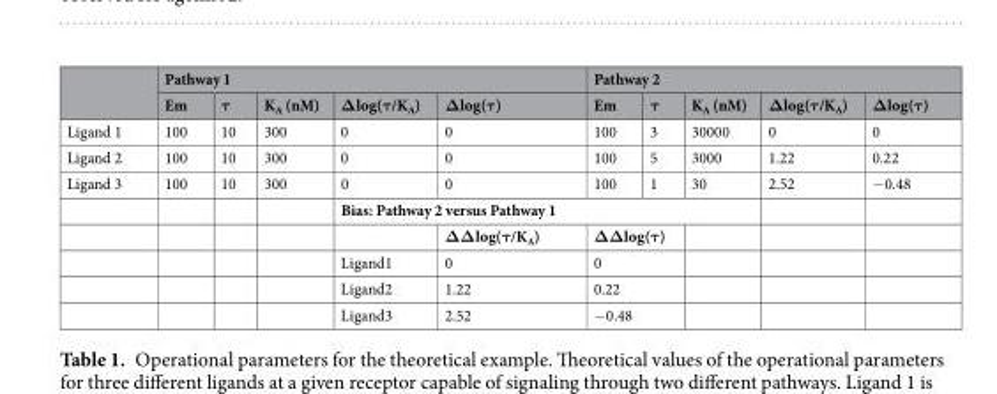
<table><thead><tr><td rowspan="2"></td><td colspan="5">Pathway 1</td><td colspan="5">Pathway 2</td></tr><tr><td>Em</td><td>τ</td><td>K<sub>A</sub> (nM)</td><td>Δlog(τ/K<sub>A</sub>)</td><td>Δlog(τ)</td><td>Em</td><td>τ</td><td>K<sub>A</sub> (nM)</td><td>Δlog(τ/K<sub>A</sub>)</td><td>Δlog(τ)</td></tr></thead><tbody><tr><td>Ligand 1</td><td>100</td><td>10</td><td>300</td><td>0</td><td>0</td><td>100</td><td>3</td><td>30000</td><td>0</td><td>0</td></tr><tr><td>Ligand 2</td><td>100</td><td>10</td><td>300</td><td>0</td><td>0</td><td>100</td><td>5</td><td>3000</td><td>1.22</td><td>0.22</td></tr><tr><td rowspan="6">Ligand 3</td><td>100</td><td>10</td><td>300</td><td>0</td><td>0</td><td>100</td><td>1</td><td>30</td><td>2.52</td><td>−0.48</td></tr><tr><td></td><td></td><td></td><td colspan="5">Bias: Pathway 2 versus Pathway 1</td><td></td><td></td></tr><tr><td></td><td></td><td></td><td></td><td>ΔΔlog(τ/K<sub>A</sub>)</td><td colspan="2">ΔΔlog(τ)</td><td></td><td></td><td></td></tr><tr><td></td><td></td><td></td><td>Ligand1</td><td>0</td><td colspan="2">0</td><td></td><td></td><td></td></tr><tr><td></td><td></td><td></td><td>Ligand2</td><td>1.22</td><td colspan="2">0.22</td><td></td><td></td><td></td></tr><tr><td></td><td></td><td></td><td>Ligand3</td><td>2.52</td><td colspan="2">−0.48</td><td></td><td></td><td></td></tr></tbody></table>